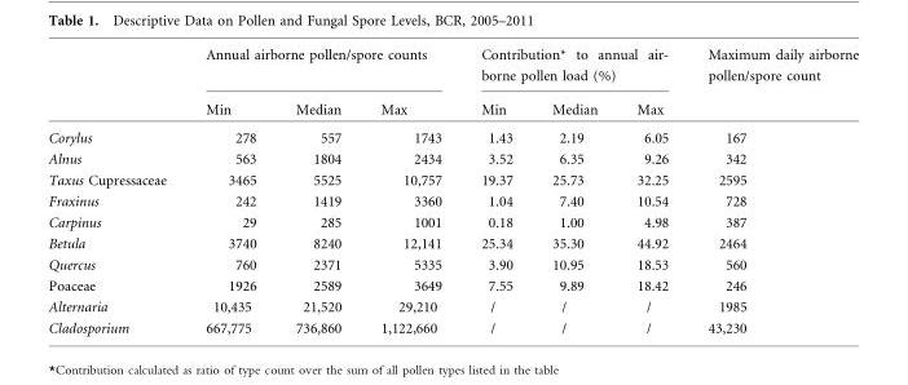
<table><thead><tr><td rowspan="2"></td><td colspan="3">Annual airborne pollen/spore counts</td><td colspan="3">Contribution* to annual air- borne pollen load (%)</td><td rowspan="2">Maximum daily airborne pollen/spore count</td></tr><tr><td>Min</td><td>Median</td><td>Max</td><td>Min</td><td>Median</td><td>Max</td></tr></thead><tbody><tr><td>Corylus</td><td>278</td><td>557</td><td>1743</td><td>1.43</td><td>2.19</td><td>6.05</td><td>167</td></tr><tr><td>Alnus</td><td>563</td><td>1804</td><td>2434</td><td>3.52</td><td>6.35</td><td>9.26</td><td>342</td></tr><tr><td>Taxus Cupressaceae</td><td>3465</td><td>5525</td><td>10,757</td><td>19.37</td><td>25.73</td><td>32.25</td><td>2595</td></tr><tr><td>Fraxinus</td><td>242</td><td>1419</td><td>3360</td><td>1.04</td><td>7.40</td><td>10.54</td><td>728</td></tr><tr><td>Carpinus</td><td>29</td><td>285</td><td>1001</td><td>0.18</td><td>1.00</td><td>4.98</td><td>387</td></tr><tr><td>Betula</td><td>3740</td><td>8240</td><td>12,141</td><td>25.34</td><td>35.30</td><td>44.92</td><td>2464</td></tr><tr><td>Quercus</td><td>760</td><td>2371</td><td>5335</td><td>3.90</td><td>10.95</td><td>18.53</td><td>560</td></tr><tr><td>Poaceae</td><td>1926</td><td>2589</td><td>3649</td><td>7.55</td><td>9.89</td><td>18.42</td><td>246</td></tr><tr><td>Alternaria</td><td>10,435</td><td>21,520</td><td>29,210</td><td>/</td><td>/</td><td>/</td><td>1985</td></tr><tr><td>Cladosporium</td><td>667,775</td><td>736,860</td><td>1,122,660</td><td>/</td><td>/</td><td>/</td><td>43,230</td></tr></tbody></table>